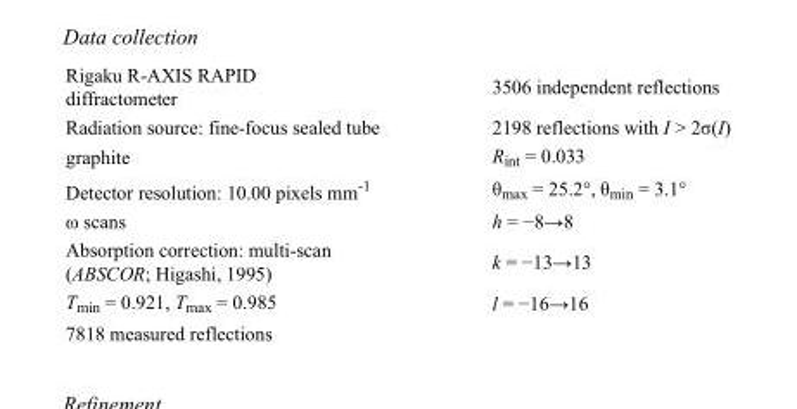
<table><tbody><tr><td>Rigaku R-AXIS RAPID diffractometer</td><td>3506 independent reflections</td></tr><tr><td>Radiation source: fine-focus sealed tube</td><td>2198 reflections with I &gt; 2σ(I)</td></tr><tr><td>graphite</td><td>R<sub>int</sub> = 0.033</td></tr><tr><td>Detector resolution: 10.00 pixels mm<sup>-1</sup></td><td>θ<sub>max</sub> = 25.2°, θ<sub>min</sub> = 3.1°</td></tr><tr><td>ω scans</td><td>h = −8→8</td></tr><tr><td>Absorption correction: multi-scan (ABSCOR; Higashi, 1995)</td><td>k = −13→13</td></tr><tr><td>T<sub>min</sub> = 0.921, T<sub>max</sub> = 0.985</td><td>l = −16→16</td></tr><tr><td>7818 measured reflections</td><td></td></tr></tbody></table>